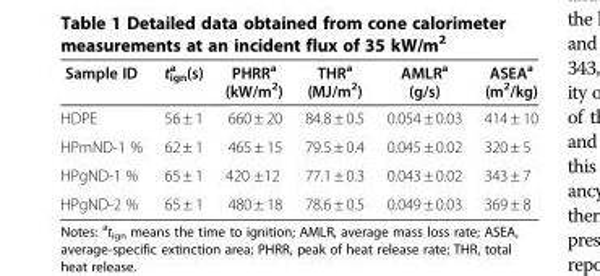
<table><thead><tr><td>Sample ID</td><td>t<sub>ign</sub> <sup>a</sup> (s)</td><td>PHRR<sup>a</sup> (kW/m<sup>2</sup>)</td><td>THR<sup>a</sup> (MJ/m<sup>2</sup>)</td><td>AMLR<sup>a</sup> (g/s)</td><td>ASEA<sup>a</sup> (m<sup>2</sup>/kg)</td></tr></thead><tbody><tr><td>HDPE</td><td>56 ± 1</td><td>660 ± 20</td><td>84.8 ± 0.5</td><td>0.054 ± 0.03</td><td>414 ± 10</td></tr><tr><td>HPmND-1 %</td><td>62 ± 1</td><td>465 ± 15</td><td>79.5 ± 0.4</td><td>0.045 ± 0.02</td><td>320 ± 5</td></tr><tr><td>HPgND-1 %</td><td>65 ± 1</td><td>420 ±12</td><td>77.1 ± 0.3</td><td>0.043 ± 0.02</td><td>343 ± 7</td></tr><tr><td>HPgND-2 %</td><td>65 ± 1</td><td>480 ± 18</td><td>78.6 ± 0.5</td><td>0.049 ± 0.03</td><td>369 ± 8</td></tr></tbody></table>